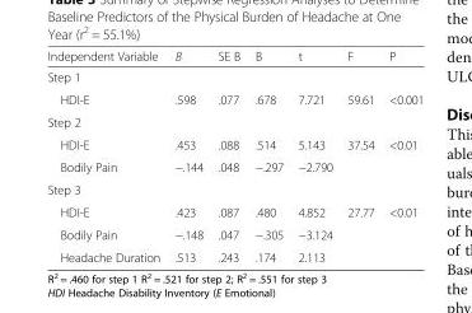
<table><thead><tr><td>Independent Variable</td><td>B</td><td>SE B</td><td>Β</td><td>t</td><td>F</td><td>P</td></tr></thead><tbody><tr><td colspan="7">Step 1</td></tr><tr><td>HDI-E</td><td>.598</td><td>.077</td><td>.678</td><td>7.721</td><td>59.61</td><td>&lt;0.001</td></tr><tr><td colspan="7">Step 2</td></tr><tr><td>HDI-E</td><td>.453</td><td>.088</td><td>.514</td><td>5.143</td><td rowspan="2">37.54</td><td rowspan="2">&lt;0.01</td></tr><tr><td>Bodily Pain</td><td>−.144</td><td>.048</td><td>−.297</td><td>−2.790</td></tr><tr><td colspan="7">Step 3</td></tr><tr><td>HDI-E</td><td>.423</td><td>.087</td><td>.480</td><td>4.852</td><td rowspan="3">27.77</td><td rowspan="3">&lt;0.01</td></tr><tr><td>Bodily Pain</td><td>−.148</td><td>.047</td><td>−.305</td><td>−3.124</td></tr><tr><td>Headache Duration</td><td>.513</td><td>.243</td><td>.174</td><td>2.113</td></tr></tbody></table>